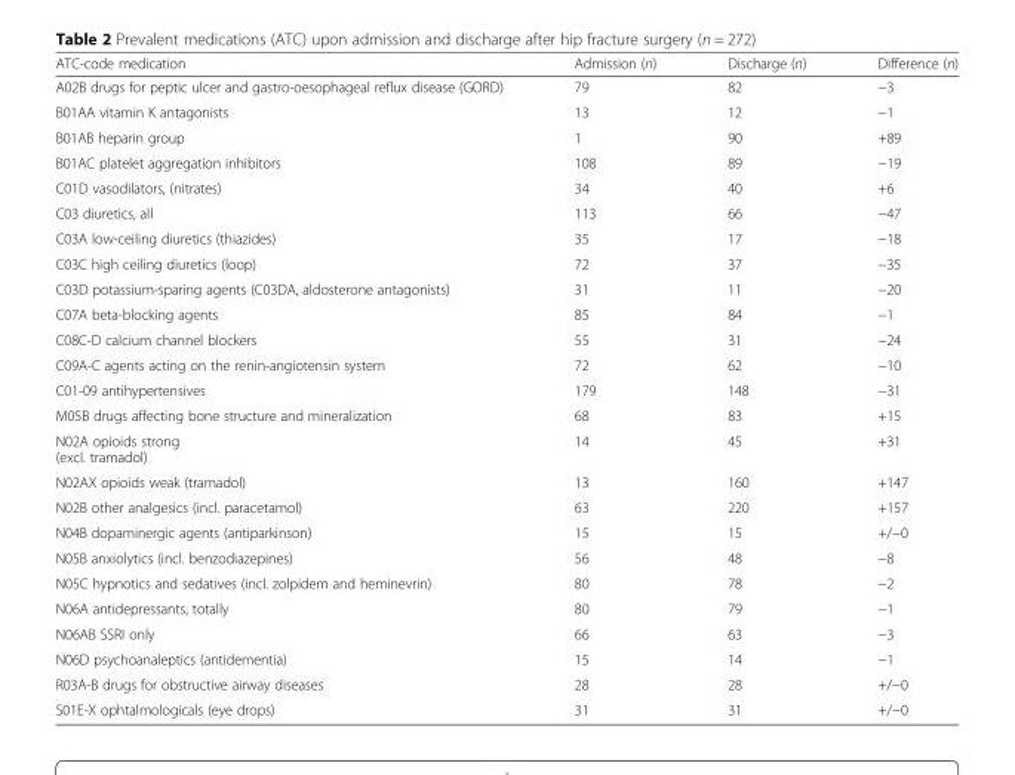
<table><thead><tr><td>ATC-code medication</td><td>Admission (n)</td><td>Discharge (n)</td><td>Difference (n)</td></tr></thead><tbody><tr><td>A02B drugs for peptic ulcer and gastro-oesophageal reflux disease (GORD)</td><td>79</td><td>82</td><td>−3</td></tr><tr><td>B01AA vitamin K antagonists</td><td>13</td><td>12</td><td>−1</td></tr><tr><td>B01AB heparin group</td><td>1</td><td>90</td><td>+89</td></tr><tr><td>B01AC platelet aggregation inhibitors</td><td>108</td><td>89</td><td>−19</td></tr><tr><td>C01D vasodilators, (nitrates)</td><td>34</td><td>40</td><td>+6</td></tr><tr><td>C03 diuretics, all</td><td>113</td><td>66</td><td>−47</td></tr><tr><td>C03A low-ceiling diuretics (thiazides)</td><td>35</td><td>17</td><td>−18</td></tr><tr><td>C03C high ceiling diuretics (loop)</td><td>72</td><td>37</td><td>−35</td></tr><tr><td>C03D potassium-sparing agents (C03DA, aldosterone antagonists)</td><td>31</td><td>11</td><td>−20</td></tr><tr><td>C07A beta-blocking agents</td><td>85</td><td>84</td><td>−1</td></tr><tr><td>C08C-D calcium channel blockers</td><td>55</td><td>31</td><td>−24</td></tr><tr><td>C09A-C agents acting on the renin-angiotensin system</td><td>72</td><td>62</td><td>−10</td></tr><tr><td>C01-09 antihypertensives</td><td>179</td><td>148</td><td>−31</td></tr><tr><td>M05B drugs affecting bone structure and mineralization</td><td>68</td><td>83</td><td>+15</td></tr><tr><td>N02A opioids strong (excl. tramadol)</td><td>14</td><td>45</td><td>+31</td></tr><tr><td>N02AX opioids weak (tramadol)</td><td>13</td><td>160</td><td>+147</td></tr><tr><td>N02B other analgesics (incl. paracetamol)</td><td>63</td><td>220</td><td>+157</td></tr><tr><td>N04B dopaminergic agents (antiparkinson)</td><td>15</td><td>15</td><td>+/−0</td></tr><tr><td>N05B anxiolytics (incl. benzodiazepines)</td><td>56</td><td>48</td><td>−8</td></tr><tr><td>N05C hypnotics and sedatives (incl. zolpidem and heminevrin)</td><td>80</td><td>78</td><td>−2</td></tr><tr><td>N06A antidepressants, totally</td><td>80</td><td>79</td><td>−1</td></tr><tr><td>N06AB SSRI only</td><td>66</td><td>63</td><td>−3</td></tr><tr><td>N06D psychoanaleptics (antidementia)</td><td>15</td><td>14</td><td>−1</td></tr><tr><td>R03A-B drugs for obstructive airway diseases</td><td>28</td><td>28</td><td>+/−0</td></tr><tr><td>S01E-X ophtalmologicals (eye drops)</td><td>31</td><td>31</td><td>+/−0</td></tr></tbody></table>